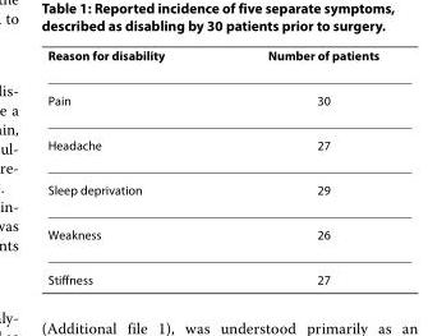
<table><thead><tr><td>Reason for disability</td><td>Number of patients</td></tr></thead><tbody><tr><td>Pain</td><td>30</td></tr><tr><td>Headache</td><td>27</td></tr><tr><td>Sleep deprivation</td><td>29</td></tr><tr><td>Weakness</td><td>26</td></tr><tr><td>Stiffness</td><td>27</td></tr></tbody></table>